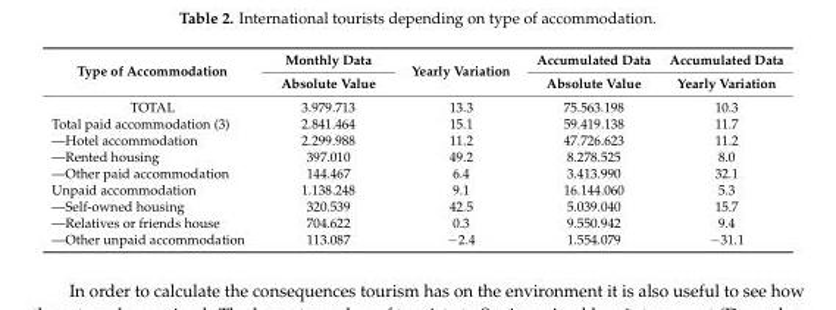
<table><thead><tr><td rowspan="2">Type of Accommodation</td><td rowspan="2">Monthly Data Absolute Value</td><td rowspan="2">Yearly Variation</td><td rowspan="2">Accumulated Data Absolute Value</td><td rowspan="2">Accumulated Data Yearly Variation</td></tr><tr></tr></thead><tbody><tr><td>TOTAL</td><td>3.979.713</td><td>13.3</td><td>75.563.198</td><td>10.3</td></tr><tr><td>Total paid accommodation (3)</td><td>2.841.464</td><td>15.1</td><td>59.419.138</td><td>11.7</td></tr><tr><td>—Hotel accommodation</td><td>2.299.988</td><td>11.2</td><td>47.726.623</td><td>11.2</td></tr><tr><td>—Rented housing</td><td>397.010</td><td>49.2</td><td>8.278.525</td><td>8.0</td></tr><tr><td>—Other paid accommodation</td><td>144.467</td><td>6.4</td><td>3.413.990</td><td>32.1</td></tr><tr><td>Unpaid accommodation</td><td>1.138.248</td><td>9.1</td><td>16.144.060</td><td>5.3</td></tr><tr><td>—Self-owned housing</td><td>320.539</td><td>42.5</td><td>5.039.040</td><td>15.7</td></tr><tr><td>—Relatives or friends house</td><td>704.622</td><td>0.3</td><td>9.550.942</td><td>9.4</td></tr><tr><td>—Other unpaid accommodation</td><td>113.087</td><td>−2.4</td><td>1.554.079</td><td>−31.1</td></tr></tbody></table>